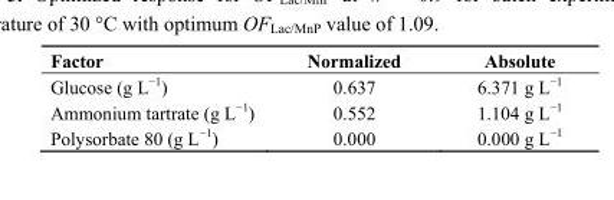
<table><thead><tr><td>Factor</td><td>Normalized</td><td>Absolute</td></tr></thead><tbody><tr><td>Glucose (g L<sup>−1</sup>)</td><td>0.637</td><td>6.371 g L<sup>−1</sup></td></tr><tr><td>Ammonium tartrate (g L<sup>−1</sup>)</td><td>0.552</td><td>1.104 g L<sup>−1</sup></td></tr><tr><td>Polysorbate 80 (g L<sup>−1</sup>)</td><td>0.000</td><td>0.000 g L<sup>−1</sup></td></tr></tbody></table>